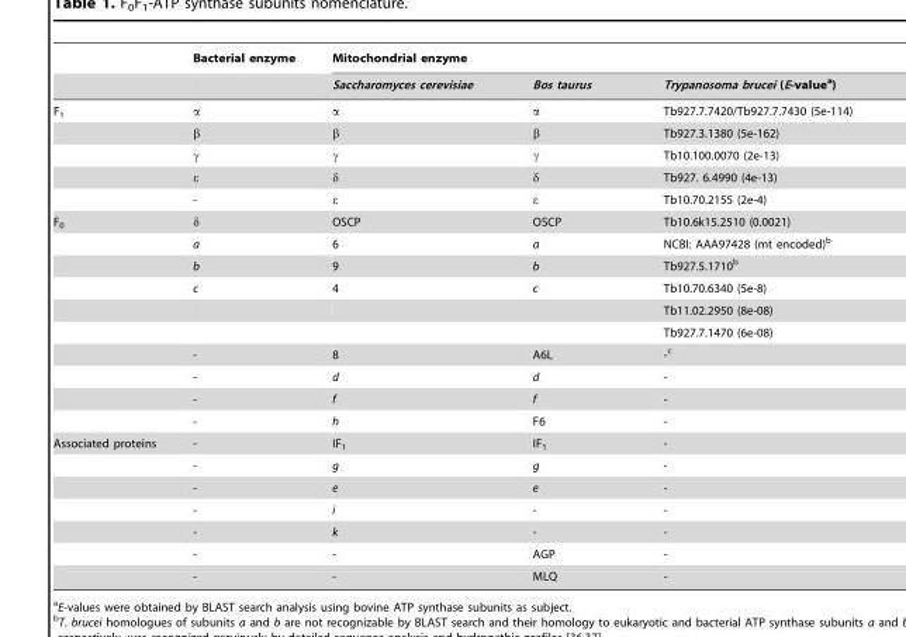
<table><thead><tr><td rowspan="2"></td><td rowspan="2">Bacterial enzyme</td><td colspan="3">Mitochondrial enzyme</td></tr><tr><td>Saccharomyces cerevisiae</td><td>Bos taurus</td><td>Trypanosoma brucei (E-value<sup>a</sup>)</td></tr></thead><tbody><tr><td rowspan="5">F<sub>1</sub></td><td>α</td><td>α</td><td>α</td><td>Tb927.7.7420/Tb927.7.7430 (5e-114)</td></tr><tr><td>β</td><td>β</td><td>β</td><td>Tb927.3.1380 (5e-162)</td></tr><tr><td>γ</td><td>γ</td><td>γ</td><td>Tb10.100.0070 (2e-13)</td></tr><tr><td>ε</td><td>δ</td><td>δ</td><td>Tb927. 6.4990 (4e-13)</td></tr><tr><td>-</td><td>ε</td><td>ε</td><td>Tb10.70.2155 (2e-4)</td></tr><tr><td rowspan="10">F<sub>0</sub></td><td>δ</td><td>OSCP</td><td>OSCP</td><td>Tb10.6k15.2510 (0.0021)</td></tr><tr><td>a</td><td>6</td><td>a</td><td>NCBI: AAA97428 (mt encoded)<sup>b</sup></td></tr><tr><td>b</td><td>9</td><td>b</td><td>Tb927.5.1710<sup>b</sup></td></tr><tr><td>c</td><td>4</td><td>c</td><td>Tb10.70.6340 (5e-8)</td></tr><tr><td></td><td></td><td></td><td>Tb11.02.2950 (8e-08)</td></tr><tr><td></td><td></td><td></td><td>Tb927.7.1470 (6e-08)</td></tr><tr><td>-</td><td>8</td><td>A6L</td><td>-c</td></tr><tr><td>-</td><td>d</td><td>d</td><td>-</td></tr><tr><td>-</td><td>f</td><td>f</td><td>-</td></tr><tr><td>-</td><td>h</td><td>F6</td><td>-</td></tr><tr><td rowspan="7">Associated proteins</td><td>-</td><td>IF<sub>1</sub></td><td>IF<sub>1</sub></td><td>-</td></tr><tr><td>-</td><td>g</td><td>g</td><td>-</td></tr><tr><td>-</td><td>e</td><td>e</td><td>-</td></tr><tr><td>-</td><td>i</td><td>-</td><td>-</td></tr><tr><td>-</td><td>k</td><td>-</td><td>-</td></tr><tr><td>-</td><td>-</td><td>AGP</td><td>-</td></tr><tr><td>-</td><td>-</td><td>MLQ</td><td>-</td></tr></tbody></table>